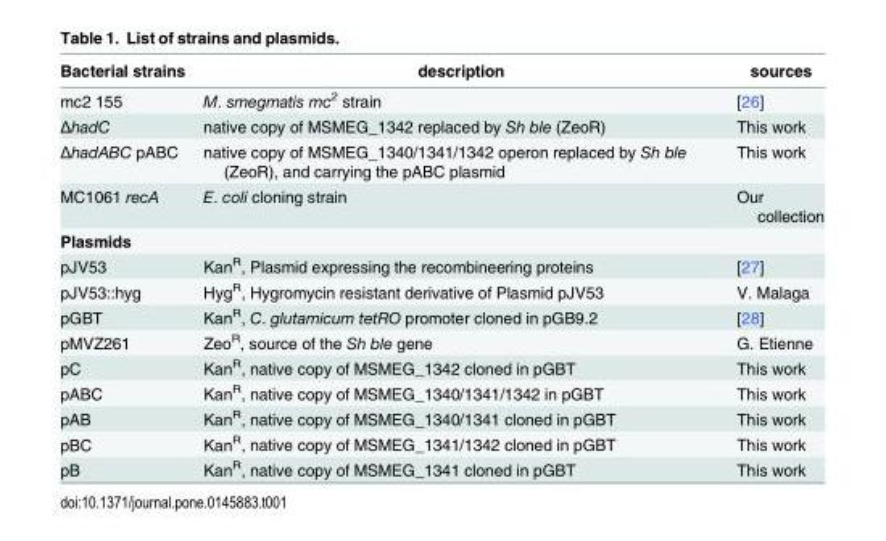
<table><thead><tr><td>Bacterial strains</td><td>description</td><td>sources</td></tr></thead><tbody><tr><td>mc2 155</td><td>M. smegmatis mc<sup>2</sup> strain</td><td>[26]</td></tr><tr><td>ΔhadC</td><td>native copy of MSMEG_1342 replaced by Sh ble (ZeoR)</td><td>This work</td></tr><tr><td>ΔhadABC pABC</td><td>native copy of MSMEG_1340/1341/1342 operon replaced by Sh ble (ZeoR), and carrying the pABC plasmid</td><td>This work</td></tr><tr><td>MC1061 recA</td><td>E. coli cloning strain</td><td>Our collection</td></tr><tr><td colspan="3">Plasmids</td></tr><tr><td>pJV53</td><td>Kan<sup>R</sup>, Plasmid expressing the recombineering proteins</td><td>[27]</td></tr><tr><td>pJV53::hyg</td><td>Hyg<sup>R</sup>, Hygromycin resistant derivative of Plasmid pJV53</td><td>V. Malaga</td></tr><tr><td>pGBT</td><td>Kan<sup>R</sup>, C. glutamicum tetRO promoter cloned in pGB9.2</td><td>[28]</td></tr><tr><td>pMVZ261</td><td>Zeo<sup>R</sup>, source of the Sh ble gene</td><td>G. Etienne</td></tr><tr><td>pC</td><td>Kan<sup>R</sup>, native copy of MSMEG_1342 cloned in pGBT</td><td>This work</td></tr><tr><td>pABC</td><td>Kan<sup>R</sup>, native copy of MSMEG_1340/1341/1342 in pGBT</td><td>This work</td></tr><tr><td>pAB</td><td>Kan<sup>R</sup>, native copy of MSMEG_1340/1341 cloned in pGBT</td><td>This work</td></tr><tr><td>pBC</td><td>Kan<sup>R</sup>, native copy of MSMEG_1341/1342 cloned in pGBT</td><td>This work</td></tr><tr><td>pB</td><td>Kan<sup>R</sup>, native copy of MSMEG_1341 cloned in pGBT</td><td>This work</td></tr></tbody></table>